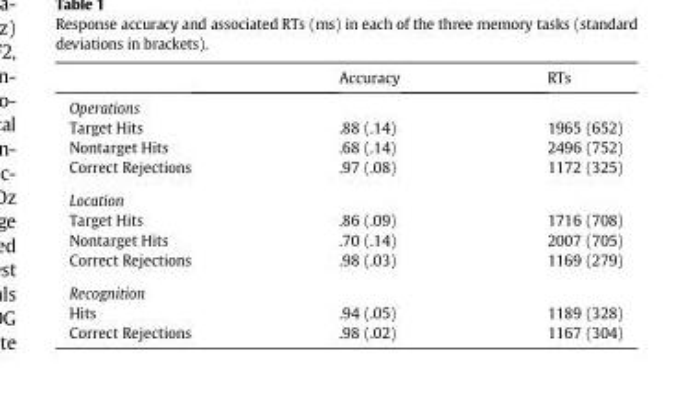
<table><thead><tr><td></td><td>Accuracy</td><td>RTs</td></tr></thead><tbody><tr><td colspan="3">Operations</td></tr><tr><td>Target Hits</td><td>.88 (.14)</td><td>1965 (652)</td></tr><tr><td>Nontarget Hits</td><td>.68 (.14)</td><td>2496 (752)</td></tr><tr><td>Correct Rejections</td><td>.97 (.08)</td><td>1172 (325)</td></tr><tr><td colspan="3">Location</td></tr><tr><td>Target Hits</td><td>.86 (.09)</td><td>1716 (708)</td></tr><tr><td>Nontarget Hits</td><td>.70 (.14)</td><td>2007 (705)</td></tr><tr><td>Correct Rejections</td><td>.98 (.03)</td><td>1169 (279)</td></tr><tr><td colspan="3">Recognition</td></tr><tr><td>Hits</td><td>.94 (.05)</td><td>1189 (328)</td></tr><tr><td>Correct Rejections</td><td>.98 (.02)</td><td>1167 (304)</td></tr></tbody></table>